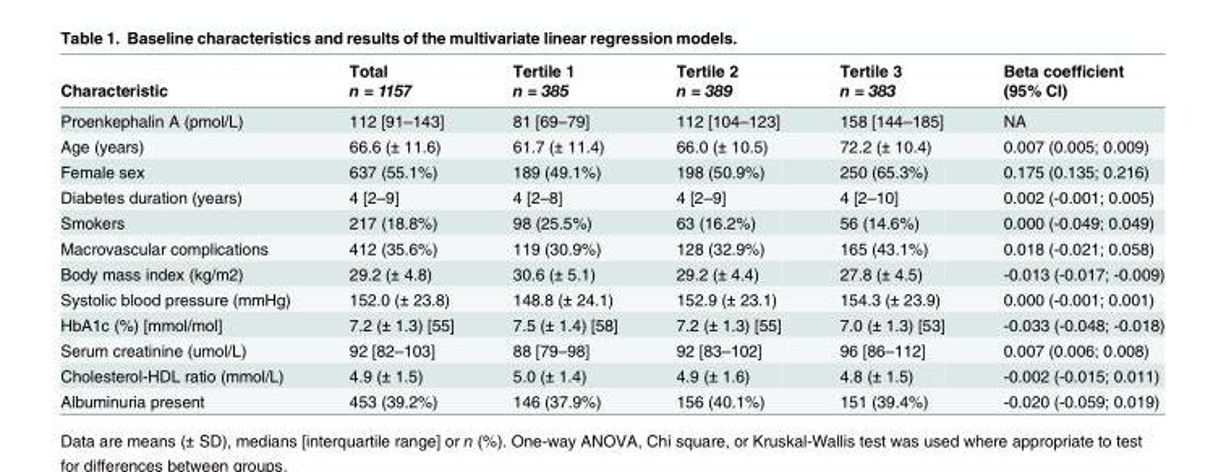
<table><thead><tr><td rowspan="2">Characteristic</td><td rowspan="2">Total n = 1157</td><td rowspan="2">Tertile 1 n = 385</td><td rowspan="2">Tertile 2 n = 389</td><td rowspan="2">Tertile 3 n = 383</td><td rowspan="2">Beta coefficient (95% CI)</td></tr><tr></tr></thead><tbody><tr><td>Proenkephalin A (pmol/L)</td><td>112 [91–143]</td><td>81 [69–79]</td><td>112 [104–123]</td><td>158 [144–185]</td><td>NA</td></tr><tr><td>Age (years)</td><td>66.6 (± 11.6)</td><td>61.7 (± 11.4)</td><td>66.0 (± 10.5)</td><td>72.2 (± 10.4)</td><td>0.007 (0.005; 0.009)</td></tr><tr><td>Female sex</td><td>637 (55.1%)</td><td>189 (49.1%)</td><td>198 (50.9%)</td><td>250 (65.3%)</td><td>0.175 (0.135; 0.216)</td></tr><tr><td>Diabetes duration (years)</td><td>4 [2–9]</td><td>4 [2–8]</td><td>4 [2–9]</td><td>4 [2–10]</td><td>0.002 (-0.001; 0.005)</td></tr><tr><td>Smokers</td><td>217 (18.8%)</td><td>98 (25.5%)</td><td>63 (16.2%)</td><td>56 (14.6%)</td><td>0.000 (-0.049; 0.049)</td></tr><tr><td>Macrovascular complications</td><td>412 (35.6%)</td><td>119 (30.9%)</td><td>128 (32.9%)</td><td>165 (43.1%)</td><td>0.018 (-0.021; 0.058)</td></tr><tr><td>Body mass index (kg/m2)</td><td>29.2 (± 4.8)</td><td>30.6 (± 5.1)</td><td>29.2 (± 4.4)</td><td>27.8 (± 4.5)</td><td>-0.013 (-0.017; -0.009)</td></tr><tr><td>Systolic blood pressure (mmHg)</td><td>152.0 (± 23.8)</td><td>148.8 (± 24.1)</td><td>152.9 (± 23.1)</td><td>154.3 (± 23.9)</td><td>0.000 (-0.001; 0.001)</td></tr><tr><td>HbA1c (%) [mmol/mol]</td><td>7.2 (± 1.3) [55]</td><td>7.5 (± 1.4) [58]</td><td>7.2 (± 1.3) [55]</td><td>7.0 (± 1.3) [53]</td><td>-0.033 (-0.048; -0.018)</td></tr><tr><td>Serum creatinine (umol/L)</td><td>92 [82–103]</td><td>88 [79–98]</td><td>92 [83–102]</td><td>96 [86–112]</td><td>0.007 (0.006; 0.008)</td></tr><tr><td>Cholesterol-HDL ratio (mmol/L)</td><td>4.9 (± 1.5)</td><td>5.0 (± 1.4)</td><td>4.9 (± 1.6)</td><td>4.8 (± 1.5)</td><td>-0.002 (-0.015; 0.011)</td></tr><tr><td>Albuminuria present</td><td>453 (39.2%)</td><td>146 (37.9%)</td><td>156 (40.1%)</td><td>151 (39.4%)</td><td>-0.020 (-0.059; 0.019)</td></tr></tbody></table>